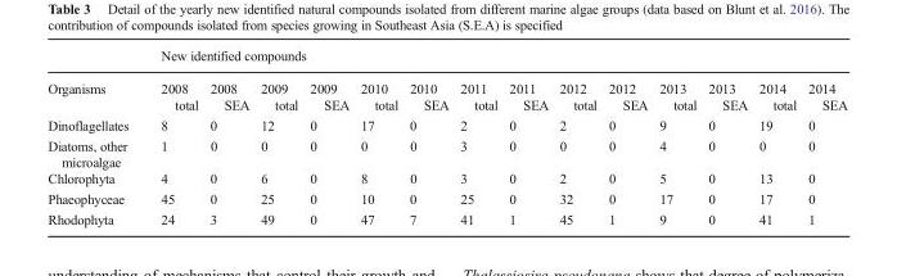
<table><thead><tr><td rowspan="2">Organisms</td><td colspan="14">New identified compounds</td></tr><tr><td>2008 total</td><td>2008 SEA</td><td>2009 total</td><td>2009 SEA</td><td>2010 total</td><td>2010 SEA</td><td>2011 total</td><td>2011 SEA</td><td>2012 total</td><td>2012 SEA</td><td>2013 total</td><td>2013 SEA</td><td>2014 total</td><td>2014 SEA</td></tr></thead><tbody><tr><td>Dinoflagellates</td><td>8</td><td>0</td><td>12</td><td>0</td><td>17</td><td>0</td><td>2</td><td>0</td><td>2</td><td>0</td><td>9</td><td>0</td><td>19</td><td>0</td></tr><tr><td>Diatoms, other microalgae</td><td>1</td><td>0</td><td>0</td><td>0</td><td>0</td><td>0</td><td>3</td><td>0</td><td>0</td><td>0</td><td>4</td><td>0</td><td>0</td><td>0</td></tr><tr><td>Chlorophyta</td><td>4</td><td>0</td><td>6</td><td>0</td><td>8</td><td>0</td><td>3</td><td>0</td><td>2</td><td>0</td><td>5</td><td>0</td><td>13</td><td>0</td></tr><tr><td>Phaeophyceae</td><td>45</td><td>0</td><td>25</td><td>0</td><td>10</td><td>0</td><td>25</td><td>0</td><td>32</td><td>0</td><td>17</td><td>0</td><td>17</td><td>0</td></tr><tr><td>Rhodophyta</td><td>24</td><td>3</td><td>49</td><td>0</td><td>47</td><td>7</td><td>41</td><td>1</td><td>45</td><td>1</td><td>9</td><td>0</td><td>41</td><td>1</td></tr></tbody></table>